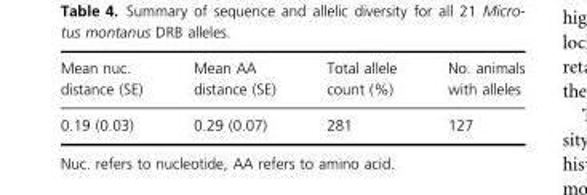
<table><thead><tr><td>Mean nuc. distance (SE)</td><td>Mean AA distance (SE)</td><td>Total allele count (%)</td><td>No. animals with alleles</td></tr></thead><tbody><tr><td>0.19 (0.03)</td><td>0.29 (0.07)</td><td>281</td><td>127</td></tr></tbody></table>